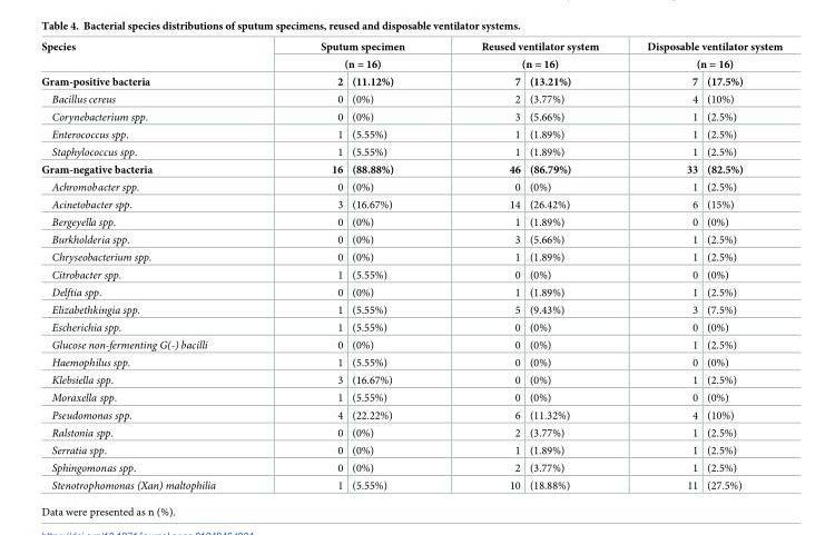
<table><thead><tr><td rowspan="3">Species Gram-positive bacteria</td><td rowspan="2" colspan="2">Sputum specimen (n = 16)</td><td rowspan="2" colspan="2">Reused ventilator system (n = 16)</td><td rowspan="2" colspan="2">Disposable ventilator system (n = 16)</td></tr><tr></tr><tr><td>2</td><td>(11.12%)</td><td>7</td><td>(13.21%)</td><td>7</td><td>(17.5%)</td></tr></thead><tbody><tr><td>Bacillus cereus</td><td>0</td><td>(0%)</td><td>2</td><td>(3.77%)</td><td>4</td><td>(10%)</td></tr><tr><td>Corynebacterium spp.</td><td>0</td><td>(0%)</td><td>3</td><td>(5.66%)</td><td>1</td><td>(2.5%)</td></tr><tr><td>Enterococcus spp.</td><td>1</td><td>(5.55%)</td><td>1</td><td>(1.89%)</td><td>1</td><td>(2.5%)</td></tr><tr><td>Staphylococcus spp.</td><td>1</td><td>(5.55%)</td><td>1</td><td>(1.89%)</td><td>1</td><td>(2.5%)</td></tr><tr><td>Gram-negative bacteria</td><td>16</td><td>(88.88%)</td><td>46</td><td>(86.79%)</td><td>33</td><td>(82.5%)</td></tr><tr><td>Achromobacter spp.</td><td>0</td><td>(0%)</td><td>0</td><td>(0%)</td><td>1</td><td>(2.5%)</td></tr><tr><td>Acinetobacter spp.</td><td>3</td><td>(16.67%)</td><td>14</td><td>(26.42%)</td><td>6</td><td>(15%)</td></tr><tr><td>Bergeyella spp.</td><td>0</td><td>(0%)</td><td>1</td><td>(1.89%)</td><td>0</td><td>(0%)</td></tr><tr><td>Burkholderia spp.</td><td>0</td><td>(0%)</td><td>3</td><td>(5.66%)</td><td>1</td><td>(2.5%)</td></tr><tr><td>Chryseobacterium spp.</td><td>0</td><td>(0%)</td><td>1</td><td>(1.89%)</td><td>1</td><td>(2.5%)</td></tr><tr><td>Citrobacter spp.</td><td>1</td><td>(5.55%)</td><td>0</td><td>(0%)</td><td>0</td><td>(0%)</td></tr><tr><td>Delftia spp.</td><td>0</td><td>(0%)</td><td>1</td><td>(1.89%)</td><td>1</td><td>(2.5%)</td></tr><tr><td>Elizabethkingia spp.</td><td>1</td><td>(5.55%)</td><td>5</td><td>(9.43%)</td><td>3</td><td>(7.5%)</td></tr><tr><td>Escherichia spp.</td><td>1</td><td>(5.55%)</td><td>0</td><td>(0%)</td><td>0</td><td>(0%)</td></tr><tr><td>Glucose non-fermenting G(-) bacilli</td><td>0</td><td>(0%)</td><td>0</td><td>(0%)</td><td>1</td><td>(2.5%)</td></tr><tr><td>Haemophilus spp.</td><td>1</td><td>(5.55%)</td><td>0</td><td>(0%)</td><td>0</td><td>(0%)</td></tr><tr><td>Klebsiella spp.</td><td>3</td><td>(16.67%)</td><td>0</td><td>(0%)</td><td>1</td><td>(2.5%)</td></tr><tr><td>Moraxella spp.</td><td>1</td><td>(5.55%)</td><td>0</td><td>(0%)</td><td>0</td><td>(0%)</td></tr><tr><td>Pseudomonas spp.</td><td>4</td><td>(22.22%)</td><td>6</td><td>(11.32%)</td><td>4</td><td>(10%)</td></tr><tr><td>Ralstonia spp.</td><td>0</td><td>(0%)</td><td>2</td><td>(3.77%)</td><td>1</td><td>(2.5%)</td></tr><tr><td>Serratia spp.</td><td>0</td><td>(0%)</td><td>1</td><td>(1.89%)</td><td>1</td><td>(2.5%)</td></tr><tr><td>Sphingomonas spp.</td><td>0</td><td>(0%)</td><td>2</td><td>(3.77%)</td><td>1</td><td>(2.5%)</td></tr><tr><td>Stenotrophomonas (Xan) maltophilia</td><td>1</td><td>(5.55%)</td><td>10</td><td>(18.88%)</td><td>11</td><td>(27.5%)</td></tr></tbody></table>